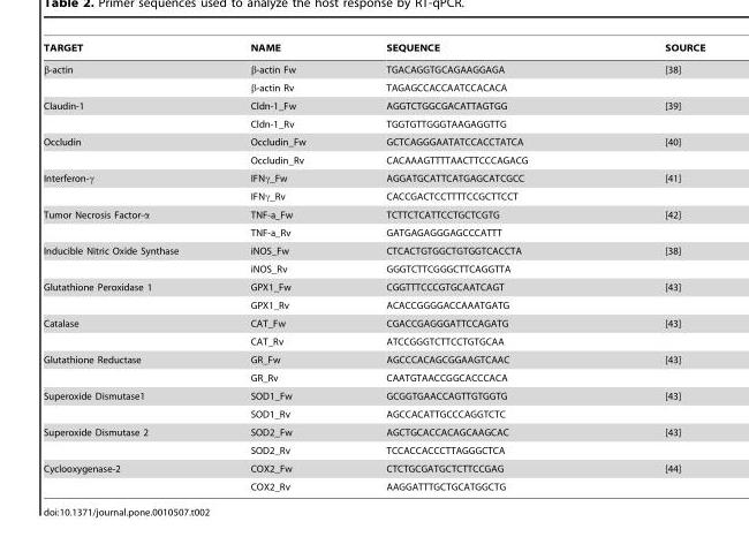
<table><thead><tr><td>TARGET</td><td>NAME</td><td>SEQUENCE</td><td>SOURCE</td></tr></thead><tbody><tr><td rowspan="2">β-actin</td><td>β-actin Fw</td><td>TGACAGGTGCAGAAGGAGA</td><td>[38]</td></tr><tr><td>β-actin Rv</td><td>TAGAGCCACCAATCCACACA</td><td></td></tr><tr><td rowspan="2">Claudin-1</td><td>Cldn-1_Fw</td><td>AGGTCTGGCGACATTAGTGG</td><td>[39]</td></tr><tr><td>Cldn-1_Rv</td><td>TGGTGTTGGGTAAGAGGTTG</td><td></td></tr><tr><td rowspan="2">Occludin</td><td>Occludin_Fw</td><td>GCTCAGGGAATATCCACCTATCA</td><td>[40]</td></tr><tr><td>Occludin_Rv</td><td>CACAAAGTTTTAACTTCCCAGACG</td><td></td></tr><tr><td rowspan="2">Interferon-γ</td><td>IFNγ_Fw</td><td>AGGATGCATTCATGAGCATCGCC</td><td>[41]</td></tr><tr><td>IFNγ_Rv</td><td>CACCGACTCCTTTTCCGCTTCCT</td><td></td></tr><tr><td rowspan="2">Tumor Necrosis Factor-α</td><td>TNF-a_Fw</td><td>TCTTCTCATTCCTGCTCGTG</td><td>[42]</td></tr><tr><td>TNF-a_Rv</td><td>GATGAGAGGGAGCCCATTT</td><td></td></tr><tr><td rowspan="2">Inducible Nitric Oxide Synthase</td><td>iNOS_Fw</td><td>CTCACTGTGGCTGTGGTCACCTA</td><td>[38]</td></tr><tr><td>iNOS_Rv</td><td>GGGTCTTCGGGCTTCAGGTTA</td><td></td></tr><tr><td rowspan="2">Glutathione Peroxidase 1</td><td>GPX1_Fw</td><td>CGGTTTCCCGTGCAATCAGT</td><td>[43]</td></tr><tr><td>GPX1_Rv</td><td>ACACCGGGGACCAAATGATG</td><td></td></tr><tr><td rowspan="2">Catalase</td><td>CAT_Fw</td><td>CGACCGAGGGATTCCAGATG</td><td>[43]</td></tr><tr><td>CAT_Rv</td><td>ATCCGGGTCTTCCTGTGCAA</td><td></td></tr><tr><td rowspan="2">Glutathione Reductase</td><td>GR_Fw</td><td>AGCCCACAGCGGAAGTCAAC</td><td>[43]</td></tr><tr><td>GR_Rv</td><td>CAATGTAACCGGCACCCACA</td><td></td></tr><tr><td rowspan="2">Superoxide Dismutase1</td><td>SOD1_Fw</td><td>GCGGTGAACCAGTTGTGGTG</td><td>[43]</td></tr><tr><td>SOD1_Rv</td><td>AGCCACATTGCCCAGGTCTC</td><td></td></tr><tr><td rowspan="2">Superoxide Dismutase 2</td><td>SOD2_Fw</td><td>AGCTGCACCACAGCAAGCAC</td><td>[43]</td></tr><tr><td>SOD2_Rv</td><td>TCCACCACCCTTAGGGCTCA</td><td></td></tr><tr><td rowspan="2">Cyclooxygenase-2</td><td>COX2_Fw</td><td>CTCTGCGATGCTCTTCCGAG</td><td>[44]</td></tr><tr><td>COX2_Rv</td><td>AAGGATTTGCTGCATGGCTG</td><td></td></tr></tbody></table>